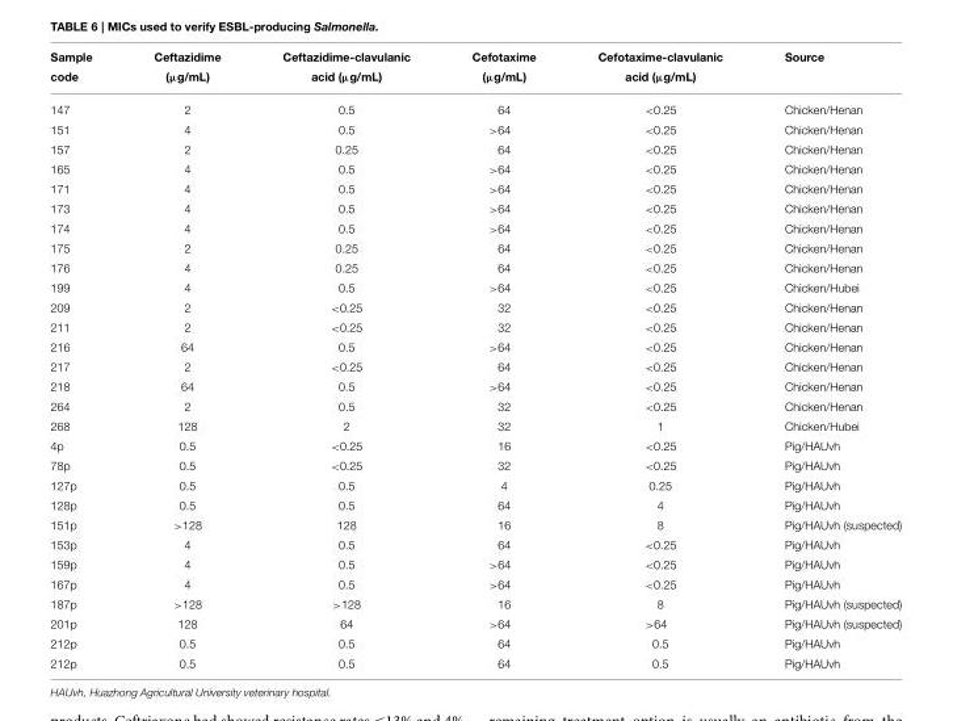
<table><thead><tr><td>Sample code</td><td>Ceftazidime (µg/mL)</td><td>Ceftazidime-clavulanic acid (µg/mL)</td><td>Cefotaxime (µg/mL)</td><td>Cefotaxime-clavulanic acid (µg/mL)</td><td>Source</td></tr></thead><tbody><tr><td>147</td><td>2</td><td>0.5</td><td>64</td><td>&lt;0.25</td><td>Chicken/Henan</td></tr><tr><td>151</td><td>4</td><td>0.5</td><td>&gt;64</td><td>&lt;0.25</td><td>Chicken/Henan</td></tr><tr><td>157</td><td>2</td><td>0.25</td><td>64</td><td>&lt;0.25</td><td>Chicken/Henan</td></tr><tr><td>165</td><td>4</td><td>0.5</td><td>&gt;64</td><td>&lt;0.25</td><td>Chicken/Henan</td></tr><tr><td>171</td><td>4</td><td>0.5</td><td>&gt;64</td><td>&lt;0.25</td><td>Chicken/Henan</td></tr><tr><td>173</td><td>4</td><td>0.5</td><td>&gt;64</td><td>&lt;0.25</td><td>Chicken/Henan</td></tr><tr><td>174</td><td>4</td><td>0.5</td><td>&gt;64</td><td>&lt;0.25</td><td>Chicken/Henan</td></tr><tr><td>175</td><td>2</td><td>0.25</td><td>64</td><td>&lt;0.25</td><td>Chicken/Henan</td></tr><tr><td>176</td><td>4</td><td>0.25</td><td>64</td><td>&lt;0.25</td><td>Chicken/Henan</td></tr><tr><td>199</td><td>4</td><td>0.5</td><td>&gt;64</td><td>&lt;0.25</td><td>Chicken/Hubei</td></tr><tr><td>209</td><td>2</td><td>&lt;0.25</td><td>32</td><td>&lt;0.25</td><td>Chicken/Henan</td></tr><tr><td>211</td><td>2</td><td>&lt;0.25</td><td>32</td><td>&lt;0.25</td><td>Chicken/Henan</td></tr><tr><td>216</td><td>64</td><td>0.5</td><td>&gt;64</td><td>&lt;0.25</td><td>Chicken/Henan</td></tr><tr><td>217</td><td>2</td><td>&lt;0.25</td><td>64</td><td>&lt;0.25</td><td>Chicken/Henan</td></tr><tr><td>218</td><td>64</td><td>0.5</td><td>&gt;64</td><td>&lt;0.25</td><td>Chicken/Henan</td></tr><tr><td>264</td><td>2</td><td>0.5</td><td>32</td><td>&lt;0.25</td><td>Chicken/Henan</td></tr><tr><td>268</td><td>128</td><td>2</td><td>32</td><td>1</td><td>Chicken/Hubei</td></tr><tr><td>4p</td><td>0.5</td><td>&lt;0.25</td><td>16</td><td>&lt;0.25</td><td>Pig/HAUvh</td></tr><tr><td>78p</td><td>0.5</td><td>&lt;0.25</td><td>32</td><td>&lt;0.25</td><td>Pig/HAUvh</td></tr><tr><td>127p</td><td>0.5</td><td>0.5</td><td>4</td><td>0.25</td><td>Pig/HAUvh</td></tr><tr><td>128p</td><td>0.5</td><td>0.5</td><td>64</td><td>4</td><td>Pig/HAUvh</td></tr><tr><td>151p</td><td>&gt;128</td><td>128</td><td>16</td><td>8</td><td>Pig/HAUvh (suspected)</td></tr><tr><td>153p</td><td>4</td><td>0.5</td><td>64</td><td>&lt;0.25</td><td>Pig/HAUvh</td></tr><tr><td>159p</td><td>4</td><td>0.5</td><td>&gt;64</td><td>&lt;0.25</td><td>Pig/HAUvh</td></tr><tr><td>167p</td><td>4</td><td>0.5</td><td>&gt;64</td><td>&lt;0.25</td><td>Pig/HAUvh</td></tr><tr><td>187p</td><td>&gt;128</td><td>&gt;128</td><td>16</td><td>8</td><td>Pig/HAUvh (suspected)</td></tr><tr><td>201p</td><td>128</td><td>64</td><td>&gt;64</td><td>&gt;64</td><td>Pig/HAUvh (suspected)</td></tr><tr><td>212p</td><td>0.5</td><td>0.5</td><td>64</td><td>0.5</td><td>Pig/HAUvh</td></tr><tr><td>212p</td><td>0.5</td><td>0.5</td><td>64</td><td>0.5</td><td>Pig/HAUvh</td></tr></tbody></table>